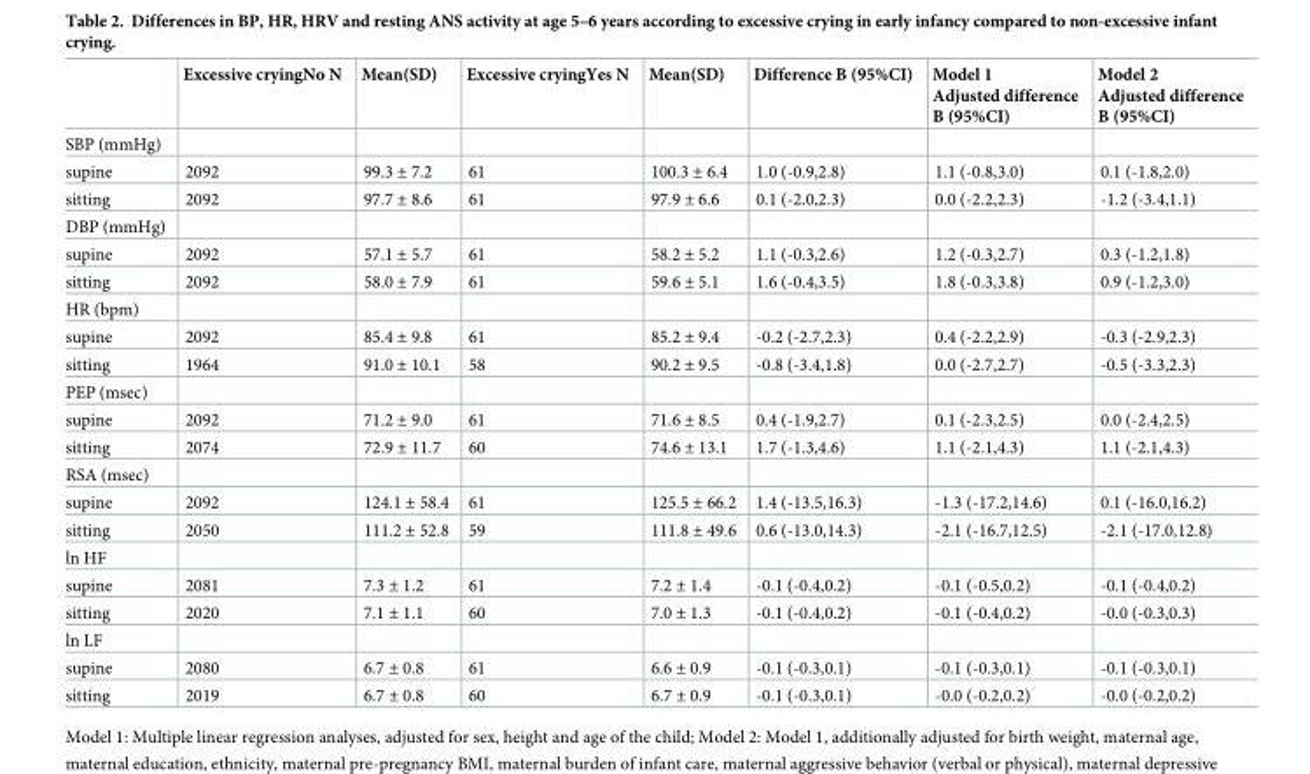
<table><thead><tr><td></td><td>Excessive cryingNo N</td><td>Mean(SD)</td><td>Excessive cryingYes N</td><td>Mean(SD)</td><td>Difference B (95%CI)</td><td>Model 1 Adjusted difference B (95%CI)</td><td>Model 2 Adjusted difference B (95%CI)</td></tr></thead><tbody><tr><td colspan="8">SBP (mmHg)</td></tr><tr><td>supine</td><td>2092</td><td>99.3 ± 7.2</td><td>61</td><td>100.3 ± 6.4</td><td>1.0 (-0.9,2.8)</td><td>1.1 (-0.8,3.0)</td><td>0.1 (-1.8,2.0)</td></tr><tr><td>sitting</td><td>2092</td><td>97.7 ± 8.6</td><td>61</td><td>97.9 ± 6.6</td><td>0.1 (-2.0,2.3)</td><td>0.0 (-2.2,2.3)</td><td>-1.2 (-3.4,1.1)</td></tr><tr><td colspan="8">DBP (mmHg)</td></tr><tr><td>supine</td><td>2092</td><td>57.1 ± 5.7</td><td>61</td><td>58.2 ± 5.2</td><td>1.1 (-0.3,2.6)</td><td>1.2 (-0.3,2.7)</td><td>0.3 (-1.2,1.8)</td></tr><tr><td>sitting</td><td>2092</td><td>58.0 ± 7.9</td><td>61</td><td>59.6 ± 5.1</td><td>1.6 (-0.4,3.5)</td><td>1.8 (-0.3,3.8)</td><td>0.9 (-1.2,3.0)</td></tr><tr><td colspan="8">HR (bpm)</td></tr><tr><td>supine</td><td>2092</td><td>85.4 ± 9.8</td><td>61</td><td>85.2 ± 9.4</td><td>-0.2 (-2.7,2.3)</td><td>0.4 (-2.2,2.9)</td><td>-0.3 (-2.9,2.3)</td></tr><tr><td>sitting</td><td>1964</td><td>91.0 ± 10.1</td><td>58</td><td>90.2 ± 9.5</td><td>-0.8 (-3.4,1.8)</td><td>0.0 (-2.7,2.7)</td><td>-0.5 (-3.3,2.3)</td></tr><tr><td colspan="8">PEP (msec)</td></tr><tr><td>supine</td><td>2092</td><td>71.2 ± 9.0</td><td>61</td><td>71.6 ± 8.5</td><td>0.4 (-1.9,2.7)</td><td>0.1 (-2.3,2.5)</td><td>0.0 (-2.4,2.5)</td></tr><tr><td>sitting</td><td>2074</td><td>72.9 ± 11.7</td><td>60</td><td>74.6 ± 13.1</td><td>1.7 (-1.3,4.6)</td><td>1.1 (-2.1,4.3)</td><td>1.1 (-2.1,4.3)</td></tr><tr><td colspan="8">RSA (msec)</td></tr><tr><td>supine</td><td>2092</td><td>124.1 ± 58.4</td><td>61</td><td>125.5 ± 66.2</td><td>1.4 (-13.5,16.3)</td><td>-1.3 (-17.2,14.6)</td><td>0.1 (-16.0,16.2)</td></tr><tr><td>sitting</td><td>2050</td><td>111.2 ± 52.8</td><td>59</td><td>111.8 ± 49.6</td><td>0.6 (-13.0,14.3)</td><td>-2.1 (-16.7,12.5)</td><td>-2.1 (-17.0,12.8)</td></tr><tr><td colspan="8">ln HF</td></tr><tr><td>supine</td><td>2081</td><td>7.3 ± 1.2</td><td>61</td><td>7.2 ± 1.4</td><td>-0.1 (-0.4,0.2)</td><td>-0.1 (-0.5,0.2)</td><td>-0.1 (-0.4,0.2)</td></tr><tr><td>sitting</td><td>2020</td><td>7.1 ± 1.1</td><td>60</td><td>7.0 ± 1.3</td><td>-0.1 (-0.4,0.2)</td><td>-0.1 (-0.4,0.2)</td><td>-0.0 (-0.3,0.3)</td></tr><tr><td colspan="8">ln LF</td></tr><tr><td>supine</td><td>2080</td><td>6.7 ± 0.8</td><td>61</td><td>6.6 ± 0.9</td><td>-0.1 (-0.3,0.1)</td><td>-0.1 (-0.3,0.1)</td><td>-0.1 (-0.3,0.1)</td></tr><tr><td>sitting</td><td>2019</td><td>6.7 ± 0.8</td><td>60</td><td>6.7 ± 0.9</td><td>-0.1 (-0.3,0.1)</td><td>-0.0 (-0.2,0.2)</td><td>-0.0 (-0.2,0.2)</td></tr></tbody></table>